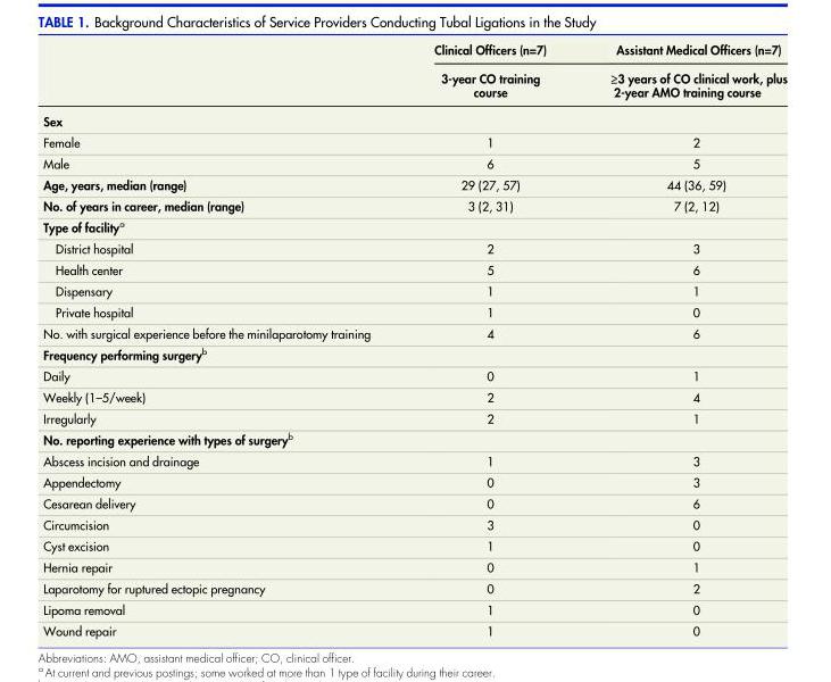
<table><thead><tr><td rowspan="2"></td><td rowspan="2">Clinical Officers (n=7) 3-year CO training course</td><td rowspan="2">Assistant Medical Officers (n=7) ≥3 years of CO clinical work, plus 2-year AMO training course</td></tr><tr></tr></thead><tbody><tr><td colspan="3">Sex</td></tr><tr><td>Female</td><td>1</td><td>2</td></tr><tr><td>Male</td><td>6</td><td>5</td></tr><tr><td>Age, years, median (range)</td><td>29 (27, 57)</td><td>44 (36, 59)</td></tr><tr><td>No. of years in career, median (range)</td><td>3 (2, 31)</td><td>7 (2, 12)</td></tr><tr><td colspan="3">Type of facility<sup>a</sup></td></tr><tr><td>District hospital</td><td>2</td><td>3</td></tr><tr><td>Health center</td><td>5</td><td>6</td></tr><tr><td>Dispensary</td><td>1</td><td>1</td></tr><tr><td>Private hospital</td><td>1</td><td>0</td></tr><tr><td>No. with surgical experience before the minilaparotomy training</td><td>4</td><td>6</td></tr><tr><td colspan="3">Frequency performing surgery<sup>b</sup></td></tr><tr><td>Daily</td><td>0</td><td>1</td></tr><tr><td>Weekly (1–5/week)</td><td>2</td><td>4</td></tr><tr><td>Irregularly</td><td>2</td><td>1</td></tr><tr><td colspan="3">No. reporting experience with types of surgery<sup>b</sup></td></tr><tr><td>Abscess incision and drainage</td><td>1</td><td>3</td></tr><tr><td>Appendectomy</td><td>0</td><td>3</td></tr><tr><td>Cesarean delivery</td><td>0</td><td>6</td></tr><tr><td>Circumcision</td><td>3</td><td>0</td></tr><tr><td>Cyst excision</td><td>1</td><td>0</td></tr><tr><td>Hernia repair</td><td>0</td><td>1</td></tr><tr><td>Laparotomy for ruptured ectopic pregnancy</td><td>0</td><td>2</td></tr><tr><td>Lipoma removal</td><td>1</td><td>0</td></tr><tr><td>Wound repair</td><td>1</td><td>0</td></tr></tbody></table>